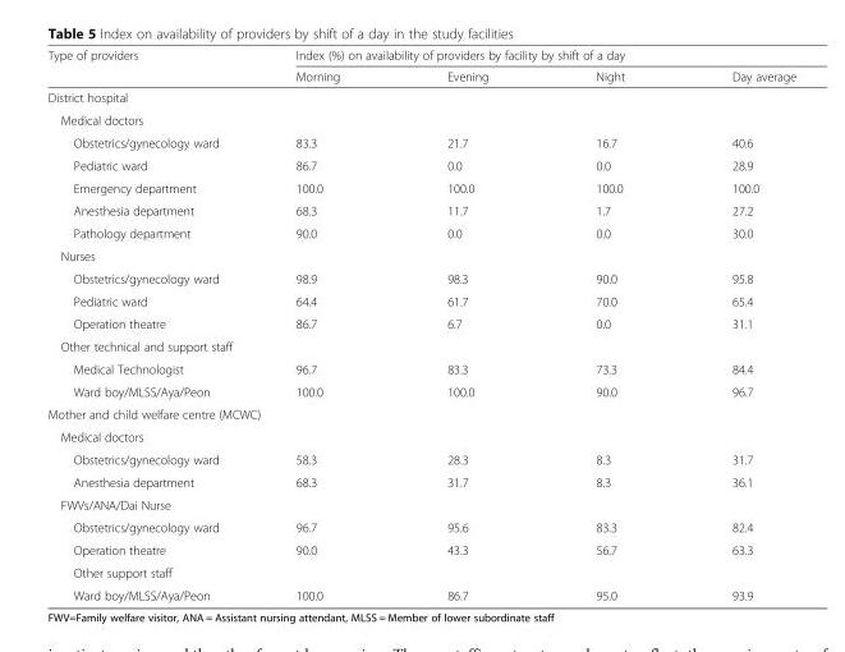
<table><thead><tr><td rowspan="2">Type of providers</td><td colspan="4">Index (%) on availability of providers by facility by shift of a day</td></tr><tr><td>Morning</td><td>Evening</td><td>Night</td><td>Day average</td></tr></thead><tbody><tr><td colspan="5">District hospital</td></tr><tr><td colspan="5">Medical doctors</td></tr><tr><td>Obstetrics/gynecology ward</td><td>83.3</td><td>21.7</td><td>16.7</td><td>40.6</td></tr><tr><td>Pediatric ward</td><td>86.7</td><td>0.0</td><td>0.0</td><td>28.9</td></tr><tr><td>Emergency department</td><td>100.0</td><td>100.0</td><td>100.0</td><td>100.0</td></tr><tr><td>Anesthesia department</td><td>68.3</td><td>11.7</td><td>1.7</td><td>27.2</td></tr><tr><td>Pathology department</td><td>90.0</td><td>0.0</td><td>0.0</td><td>30.0</td></tr><tr><td colspan="5">Nurses</td></tr><tr><td>Obstetrics/gynecology ward</td><td>98.9</td><td>98.3</td><td>90.0</td><td>95.8</td></tr><tr><td>Pediatric ward</td><td>64.4</td><td>61.7</td><td>70.0</td><td>65.4</td></tr><tr><td>Operation theatre</td><td>86.7</td><td>6.7</td><td>0.0</td><td>31.1</td></tr><tr><td colspan="5">Other technical and support staff</td></tr><tr><td>Medical Technologist</td><td>96.7</td><td>83.3</td><td>73.3</td><td>84.4</td></tr><tr><td>Ward boy/MLSS/Aya/Peon</td><td>100.0</td><td>100.0</td><td>90.0</td><td>96.7</td></tr><tr><td colspan="5">Mother and child welfare centre (MCWC)</td></tr><tr><td colspan="5">Medical doctors</td></tr><tr><td>Obstetrics/gynecology ward</td><td>58.3</td><td>28.3</td><td>8.3</td><td>31.7</td></tr><tr><td>Anesthesia department</td><td>68.3</td><td>31.7</td><td>8.3</td><td>36.1</td></tr><tr><td colspan="5">FWVs/ANA/Dai Nurse</td></tr><tr><td>Obstetrics/gynecology ward</td><td>96.7</td><td>95.6</td><td>83.3</td><td>82.4</td></tr><tr><td>Operation theatre</td><td>90.0</td><td>43.3</td><td>56.7</td><td>63.3</td></tr><tr><td colspan="5">Other support staff</td></tr><tr><td>Ward boy/MLSS/Aya/Peon</td><td>100.0</td><td>86.7</td><td>95.0</td><td>93.9</td></tr></tbody></table>